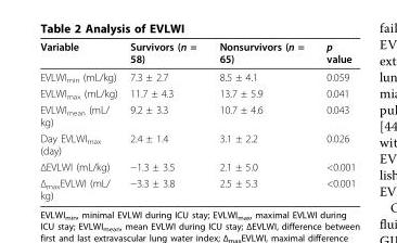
<table><thead><tr><td>Variable</td><td>Survivors (n = 58)</td><td>Nonsurvivors (n = 65)</td><td>p value</td></tr></thead><tbody><tr><td>EVLWI<sub>min</sub> (mL/kg)</td><td>7.3 ± 2.7</td><td>8.5 ± 4.1</td><td>0.059</td></tr><tr><td>EVLWI<sub>max</sub> (mL/kg)</td><td>11.7 ± 4.3</td><td>13.7 ± 5.9</td><td>0.041</td></tr><tr><td>EVLWI<sub>mean</sub> (mL/ kg)</td><td>9.2 ± 3.3</td><td>10.7 ± 4.6</td><td>0.043</td></tr><tr><td>Day EVLWI<sub>max</sub> (day)</td><td>2.4 ± 1.4</td><td>3.1 ± 2.2</td><td>0.026</td></tr><tr><td>ΔEVLWI (mL/kg)</td><td>−1.3 ± 3.5</td><td>2.1 ± 5.0</td><td>&lt;0.001</td></tr><tr><td>Δ<sub>max</sub>EVLWI (mL/ kg)</td><td>−3.3 ± 3.8</td><td>2.5 ± 5.3</td><td>&lt;0.001</td></tr></tbody></table>